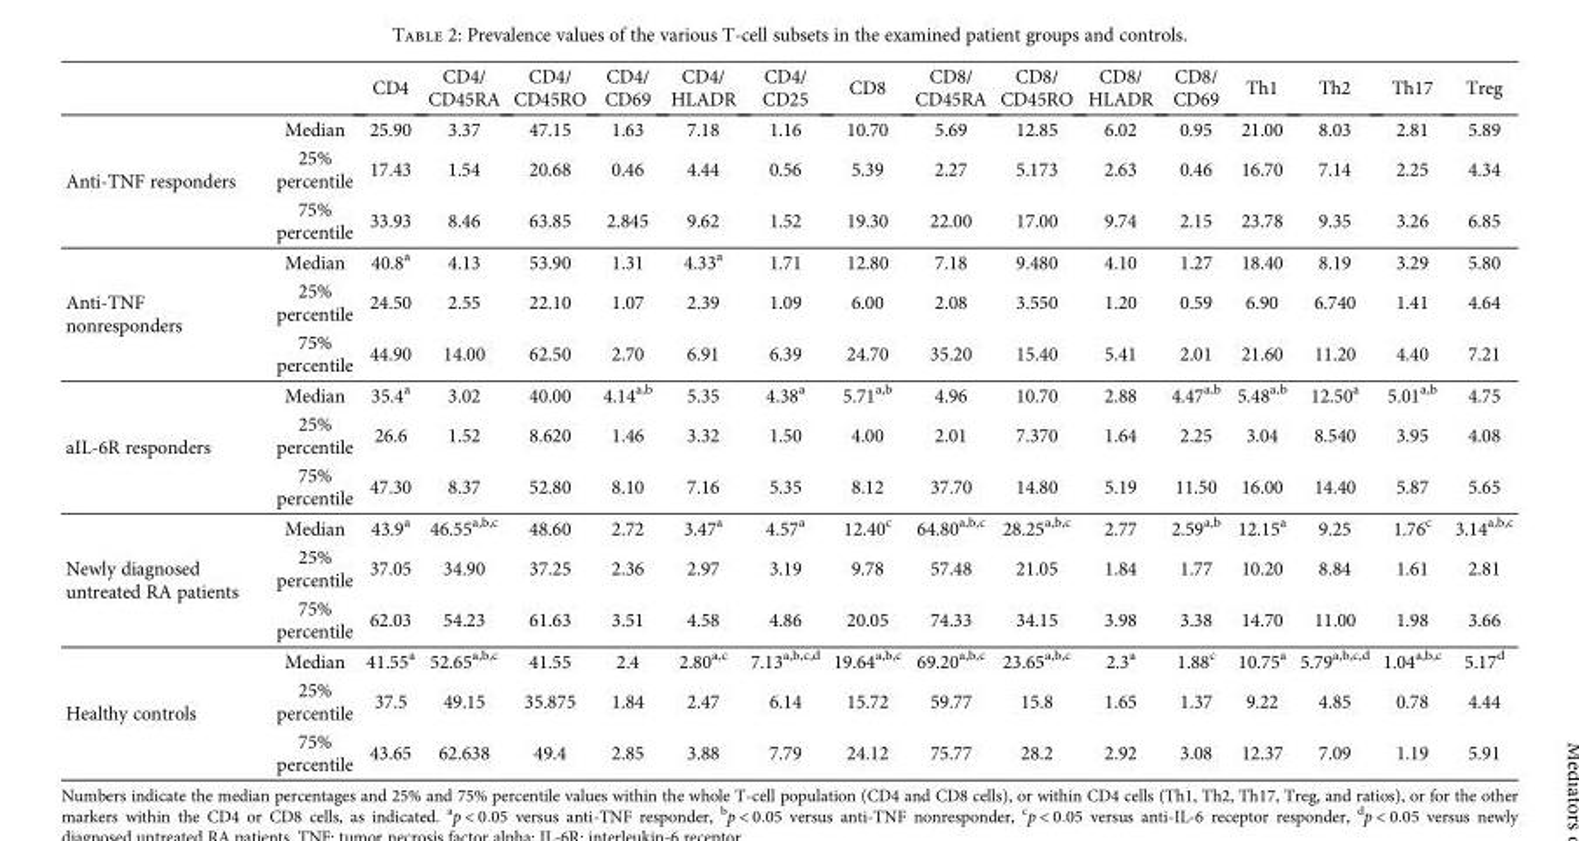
<table><thead><tr><td></td><td></td><td>CD4</td><td>CD4/ CD45RA</td><td>CD4/ CD45RO</td><td>CD4/ CD69</td><td>CD4/ HLADR</td><td>CD4/ CD25</td><td>CD8</td><td>CD8/ CD45RA</td><td>CD8/ CD45RO</td><td>CD8/ HLADR</td><td>CD8/ CD69</td><td>Th1</td><td>Th2</td><td>Th17</td><td>Treg</td></tr></thead><tbody><tr><td rowspan="3">Anti-TNF responders</td><td>Median</td><td>25.90</td><td>3.37</td><td>47.15</td><td>1.63</td><td>7.18</td><td>1.16</td><td>10.70</td><td>5.69</td><td>12.85</td><td>6.02</td><td>0.95</td><td>21.00</td><td>8.03</td><td>2.81</td><td>5.89</td></tr><tr><td>25% percentile</td><td>17.43</td><td>1.54</td><td>20.68</td><td>0.46</td><td>4.44</td><td>0.56</td><td>5.39</td><td>2.27</td><td>5.173</td><td>2.63</td><td>0.46</td><td>16.70</td><td>7.14</td><td>2.25</td><td>4.34</td></tr><tr><td>75% percentile</td><td>33.93</td><td>8.46</td><td>63.85</td><td>2.845</td><td>9.62</td><td>1.52</td><td>19.30</td><td>22.00</td><td>17.00</td><td>9.74</td><td>2.15</td><td>23.78</td><td>9.35</td><td>3.26</td><td>6.85</td></tr><tr><td rowspan="3">Anti-TNF nonresponders</td><td>Median</td><td>40.8<sup>a</sup></td><td>4.13</td><td>53.90</td><td>1.31</td><td>4.33<sup>a</sup></td><td>1.71</td><td>12.80</td><td>7.18</td><td>9.480</td><td>4.10</td><td>1.27</td><td>18.40</td><td>8.19</td><td>3.29</td><td>5.80</td></tr><tr><td>25% percentile</td><td>24.50</td><td>2.55</td><td>22.10</td><td>1.07</td><td>2.39</td><td>1.09</td><td>6.00</td><td>2.08</td><td>3.550</td><td>1.20</td><td>0.59</td><td>6.90</td><td>6.740</td><td>1.41</td><td>4.64</td></tr><tr><td>75% percentile</td><td>44.90</td><td>14.00</td><td>62.50</td><td>2.70</td><td>6.91</td><td>6.39</td><td>24.70</td><td>35.20</td><td>15.40</td><td>5.41</td><td>2.01</td><td>21.60</td><td>11.20</td><td>4.40</td><td>7.21</td></tr><tr><td rowspan="3">aIL-6R responders</td><td>Median</td><td>35.4<sup>a</sup></td><td>3.02</td><td>40.00</td><td>4.14<sup>a,b</sup></td><td>5.35</td><td>4.38<sup>a</sup></td><td>5.71<sup>a,b</sup></td><td>4.96</td><td>10.70</td><td>2.88</td><td>4.47<sup>a,b</sup></td><td>5.48<sup>a,b</sup></td><td>12.50<sup>a</sup></td><td>5.01<sup>a,b</sup></td><td>4.75</td></tr><tr><td>25% percentile</td><td>26.6</td><td>1.52</td><td>8.620</td><td>1.46</td><td>3.32</td><td>1.50</td><td>4.00</td><td>2.01</td><td>7.370</td><td>1.64</td><td>2.25</td><td>3.04</td><td>8.540</td><td>3.95</td><td>4.08</td></tr><tr><td>75% percentile</td><td>47.30</td><td>8.37</td><td>52.80</td><td>8.10</td><td>7.16</td><td>5.35</td><td>8.12</td><td>37.70</td><td>14.80</td><td>5.19</td><td>11.50</td><td>16.00</td><td>14.40</td><td>5.87</td><td>5.65</td></tr><tr><td rowspan="3">Newly diagnosed untreated RA patients</td><td>Median</td><td>43.9<sup>a</sup></td><td>46.55<sup>a,b,c</sup></td><td>48.60</td><td>2.72</td><td>3.47<sup>a</sup></td><td>4.57<sup>a</sup></td><td>12.40<sup>c</sup></td><td>64.80<sup>a,b,c</sup></td><td>28.25<sup>a,b,c</sup></td><td>2.77</td><td>2.59<sup>a,b</sup></td><td>12.15<sup>a</sup></td><td>9.25</td><td>1.76<sup>c</sup></td><td>3.14<sup>a,b,c</sup></td></tr><tr><td>25% percentile</td><td>37.05</td><td>34.90</td><td>37.25</td><td>2.36</td><td>2.97</td><td>3.19</td><td>9.78</td><td>57.48</td><td>21.05</td><td>1.84</td><td>1.77</td><td>10.20</td><td>8.84</td><td>1.61</td><td>2.81</td></tr><tr><td>75% percentile</td><td>62.03</td><td>54.23</td><td>61.63</td><td>3.51</td><td>4.58</td><td>4.86</td><td>20.05</td><td>74.33</td><td>34.15</td><td>3.98</td><td>3.38</td><td>14.70</td><td>11.00</td><td>1.98</td><td>3.66</td></tr><tr><td rowspan="3">Healthy controls</td><td>Median</td><td>41.55<sup>a</sup></td><td>52.65<sup>a,b,c</sup></td><td>41.55</td><td>2.4</td><td>2.80<sup>a,c</sup></td><td>7.13<sup>a,b,c,d</sup></td><td>19.64<sup>a,b,c</sup></td><td>69.20<sup>a,b,c</sup></td><td>23.65<sup>a,b,c</sup></td><td>2.3<sup>a</sup></td><td>1.88<sup>c</sup></td><td>10.75<sup>a</sup></td><td>5.79<sup>a,b,c,d</sup></td><td>1.04<sup>a,b,c</sup></td><td>5.17<sup>d</sup></td></tr><tr><td>25% percentile</td><td>37.5</td><td>49.15</td><td>35.875</td><td>1.84</td><td>2.47</td><td>6.14</td><td>15.72</td><td>59.77</td><td>15.8</td><td>1.65</td><td>1.37</td><td>9.22</td><td>4.85</td><td>0.78</td><td>4.44</td></tr><tr><td>75% percentile</td><td>43.65</td><td>62.638</td><td>49.4</td><td>2.85</td><td>3.88</td><td>7.79</td><td>24.12</td><td>75.77</td><td>28.2</td><td>2.92</td><td>3.08</td><td>12.37</td><td>7.09</td><td>1.19</td><td>5.91</td></tr></tbody></table>